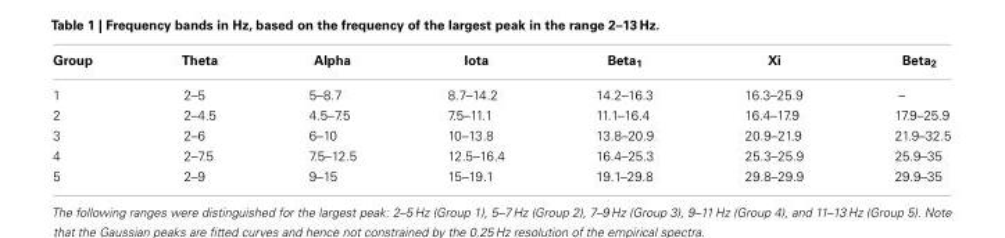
<table><thead><tr><td>Group</td><td>Theta</td><td>Alpha</td><td>Iota</td><td>Beta<sub>1</sub></td><td>Xi</td><td>Beta<sub>2</sub></td></tr></thead><tbody><tr><td>1</td><td>2–5</td><td>5–8.7</td><td>8.7–14.2</td><td>14.2–16.3</td><td>16.3–25.9</td><td>–</td></tr><tr><td>2</td><td>2–4.5</td><td>4.5–7.5</td><td>7.5–11.1</td><td>11.1–16.4</td><td>16.4–17.9</td><td>17.9–25.9</td></tr><tr><td>3</td><td>2–6</td><td>6–10</td><td>10–13.8</td><td>13.8–20.9</td><td>20.9–21.9</td><td>21.9–32.5</td></tr><tr><td>4</td><td>2–7.5</td><td>7.5–12.5</td><td>12.5–16.4</td><td>16.4–25.3</td><td>25.3–25.9</td><td>25.9–35</td></tr><tr><td>5</td><td>2–9</td><td>9–15</td><td>15–19.1</td><td>19.1–29.8</td><td>29.8–29.9</td><td>29.9–35</td></tr></tbody></table>